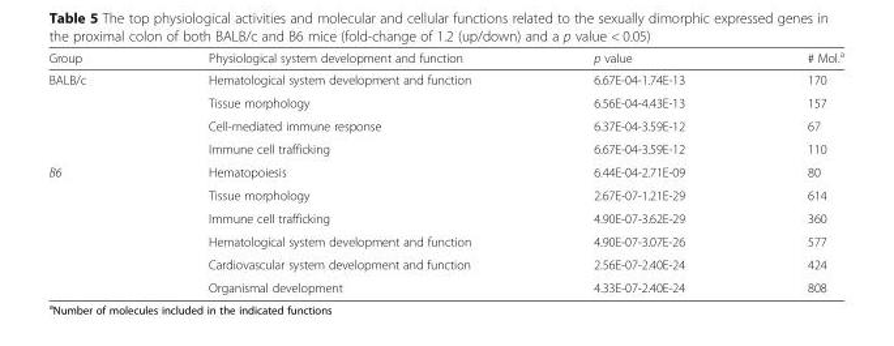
<table><thead><tr><td>Group</td><td>Physiological system development and function</td><td>p value</td><td># Mol.<sup>a</sup></td></tr></thead><tbody><tr><td rowspan="4">BALB/c</td><td>Hematological system development and function</td><td>6.67E-04-1.74E-13</td><td>170</td></tr><tr><td>Tissue morphology</td><td>6.56E-04-4.43E-13</td><td>157</td></tr><tr><td>Cell-mediated immune response</td><td>6.37E-04-3.59E-12</td><td>67</td></tr><tr><td>Immune cell trafficking</td><td>6.67E-04-3.59E-12</td><td>110</td></tr><tr><td rowspan="6">B6</td><td>Hematopoiesis</td><td>6.44E-04-2.71E-09</td><td>80</td></tr><tr><td>Tissue morphology</td><td>2.67E-07-1.21E-29</td><td>614</td></tr><tr><td>Immune cell trafficking</td><td>4.90E-07-3.62E-29</td><td>360</td></tr><tr><td>Hematological system development and function</td><td>4.90E-07-3.07E-26</td><td>577</td></tr><tr><td>Cardiovascular system development and function</td><td>2.56E-07-2.40E-24</td><td>424</td></tr><tr><td>Organismal development</td><td>4.33E-07-2.40E-24</td><td>808</td></tr></tbody></table>